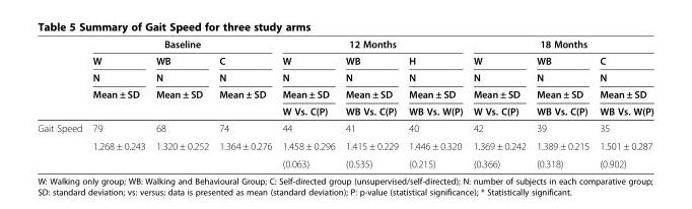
<table><thead><tr><td rowspan="5"></td><td colspan="3">Baseline</td><td colspan="3">12 Months</td><td colspan="3">18 Months</td></tr><tr><td rowspan="4">W N Mean ± SD</td><td rowspan="4">WB N Mean ± SD</td><td rowspan="4">C N Mean ± SD</td><td rowspan="4">W N Mean ± SD W Vs. C(P)</td><td rowspan="4">WB N Mean ± SD WB Vs. C(P)</td><td rowspan="4">H N Mean ± SD WB Vs. W(P)</td><td rowspan="4">W N Mean ± SD W Vs. C(P)</td><td rowspan="4">WB N Mean ± SD WB Vs. C(P)</td><td rowspan="4">C N Mean ± SD WB Vs. W(P)</td></tr><tr></tr><tr></tr><tr></tr></thead><tbody><tr><td rowspan="3">Gait Speed</td><td>79</td><td>68</td><td>74</td><td>44</td><td>41</td><td>40</td><td>42</td><td>39</td><td>35</td></tr><tr><td>1.268 ± 0.243</td><td>1.320 ± 0.252</td><td>1.364 ± 0.276</td><td>1.458 ± 0.296</td><td>1.415 ± 0.229</td><td>1.446 ± 0.320</td><td>1.369 ± 0.242</td><td>1.389 ± 0.215</td><td>1.501 ± 0.287</td></tr><tr><td></td><td></td><td></td><td>(0.063)</td><td>(0.535)</td><td>(0.215)</td><td>(0.366)</td><td>(0.318)</td><td>(0.902)</td></tr></tbody></table>